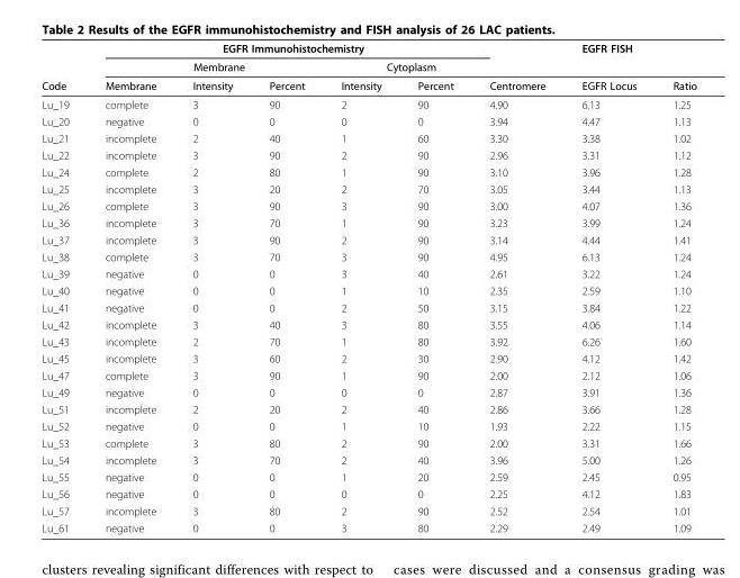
<table><thead><tr><td rowspan="3">Code</td><td colspan="5">EGFR Immunohistochemistry</td><td colspan="3">EGFR FISH</td></tr><tr><td colspan="3">Membrane</td><td colspan="2">Cytoplasm</td><td rowspan="2">Centromere</td><td rowspan="2">EGFR Locus</td><td rowspan="2">Ratio</td></tr><tr><td>Membrane</td><td>Intensity</td><td>Percent</td><td>Intensity</td><td>Percent</td></tr></thead><tbody><tr><td>Lu_19</td><td>complete</td><td>3</td><td>90</td><td>2</td><td>90</td><td>4.90</td><td>6.13</td><td>1.25</td></tr><tr><td>Lu_20</td><td>negative</td><td>0</td><td>0</td><td>0</td><td>0</td><td>3.94</td><td>4.47</td><td>1.13</td></tr><tr><td>Lu_21</td><td>incomplete</td><td>2</td><td>40</td><td>1</td><td>60</td><td>3.30</td><td>3.38</td><td>1.02</td></tr><tr><td>Lu_22</td><td>incomplete</td><td>3</td><td>90</td><td>2</td><td>90</td><td>2.96</td><td>3.31</td><td>1.12</td></tr><tr><td>Lu_24</td><td>complete</td><td>2</td><td>80</td><td>1</td><td>90</td><td>3.10</td><td>3.96</td><td>1.28</td></tr><tr><td>Lu_25</td><td>incomplete</td><td>3</td><td>20</td><td>2</td><td>70</td><td>3.05</td><td>3.44</td><td>1.13</td></tr><tr><td>Lu_26</td><td>complete</td><td>3</td><td>90</td><td>3</td><td>90</td><td>3.00</td><td>4.07</td><td>1.36</td></tr><tr><td>Lu_36</td><td>incomplete</td><td>3</td><td>70</td><td>1</td><td>90</td><td>3.23</td><td>3.99</td><td>1.24</td></tr><tr><td>Lu_37</td><td>incomplete</td><td>3</td><td>90</td><td>2</td><td>90</td><td>3.14</td><td>4.44</td><td>1.41</td></tr><tr><td>Lu_38</td><td>complete</td><td>3</td><td>70</td><td>3</td><td>90</td><td>4.95</td><td>6.13</td><td>1.24</td></tr><tr><td>Lu_39</td><td>negative</td><td>0</td><td>0</td><td>3</td><td>40</td><td>2.61</td><td>3.22</td><td>1.24</td></tr><tr><td>Lu_40</td><td>negative</td><td>0</td><td>0</td><td>1</td><td>10</td><td>2.35</td><td>2.59</td><td>1.10</td></tr><tr><td>Lu_41</td><td>negative</td><td>0</td><td>0</td><td>2</td><td>50</td><td>3.15</td><td>3.84</td><td>1.22</td></tr><tr><td>Lu_42</td><td>incomplete</td><td>3</td><td>40</td><td>3</td><td>80</td><td>3.55</td><td>4.06</td><td>1.14</td></tr><tr><td>Lu_43</td><td>incomplete</td><td>2</td><td>70</td><td>1</td><td>80</td><td>3.92</td><td>6.26</td><td>1.60</td></tr><tr><td>Lu_45</td><td>incomplete</td><td>3</td><td>60</td><td>2</td><td>30</td><td>2.90</td><td>4.12</td><td>1.42</td></tr><tr><td>Lu_47</td><td>complete</td><td>3</td><td>90</td><td>1</td><td>90</td><td>2.00</td><td>2.12</td><td>1.06</td></tr><tr><td>Lu_49</td><td>negative</td><td>0</td><td>0</td><td>0</td><td>0</td><td>2.87</td><td>3.91</td><td>1.36</td></tr><tr><td>Lu_51</td><td>incomplete</td><td>2</td><td>20</td><td>2</td><td>40</td><td>2.86</td><td>3.66</td><td>1.28</td></tr><tr><td>Lu_52</td><td>negative</td><td>0</td><td>0</td><td>1</td><td>10</td><td>1.93</td><td>2.22</td><td>1.15</td></tr><tr><td>Lu_53</td><td>complete</td><td>3</td><td>80</td><td>2</td><td>90</td><td>2.00</td><td>3.31</td><td>1.66</td></tr><tr><td>Lu_54</td><td>incomplete</td><td>3</td><td>70</td><td>2</td><td>40</td><td>3.96</td><td>5.00</td><td>1.26</td></tr><tr><td>Lu_55</td><td>negative</td><td>0</td><td>0</td><td>1</td><td>20</td><td>2.59</td><td>2.45</td><td>0.95</td></tr><tr><td>Lu_56</td><td>negative</td><td>0</td><td>0</td><td>0</td><td>0</td><td>2.25</td><td>4.12</td><td>1.83</td></tr><tr><td>Lu_57</td><td>incomplete</td><td>3</td><td>80</td><td>2</td><td>90</td><td>2.52</td><td>2.54</td><td>1.01</td></tr><tr><td>Lu_61</td><td>negative</td><td>0</td><td>0</td><td>3</td><td>80</td><td>2.29</td><td>2.49</td><td>1.09</td></tr></tbody></table>